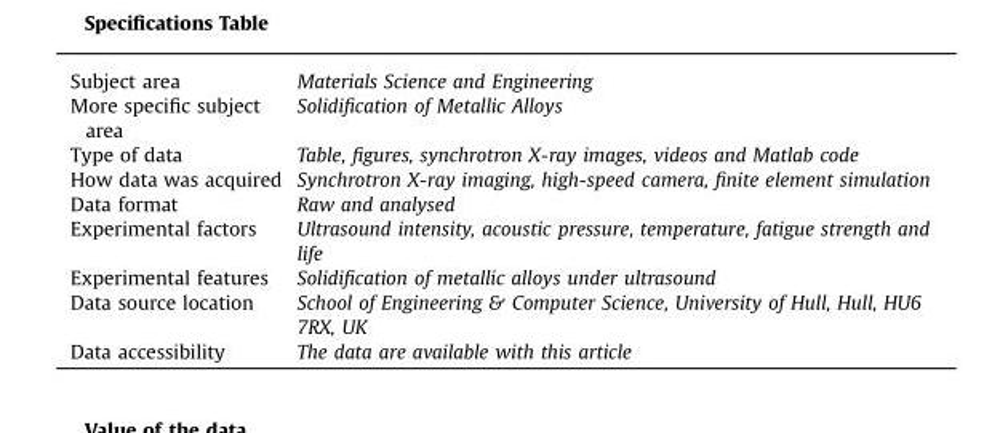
<table><tbody><tr><td>Subject area</td><td>Materials Science and Engineering</td></tr><tr><td>More specific subject area</td><td>Solidification of Metallic Alloys</td></tr><tr><td>Type of data</td><td>Table, figures, synchrotron X-ray images, videos and Matlab code</td></tr><tr><td>How data was acquired</td><td>Synchrotron X-ray imaging, high-speed camera, finite element simulation</td></tr><tr><td>Data format</td><td>Raw and analysed</td></tr><tr><td>Experimental factors</td><td>Ultrasound intensity, acoustic pressure, temperature, fatigue strength and life</td></tr><tr><td>Experimental features</td><td>Solidification of metallic alloys under ultrasound</td></tr><tr><td>Data source location</td><td>School of Engineering &amp; Computer Science, University of Hull, Hull, HU6 7RX, UK</td></tr><tr><td>Data accessibility</td><td>The data are available with this article</td></tr></tbody></table>